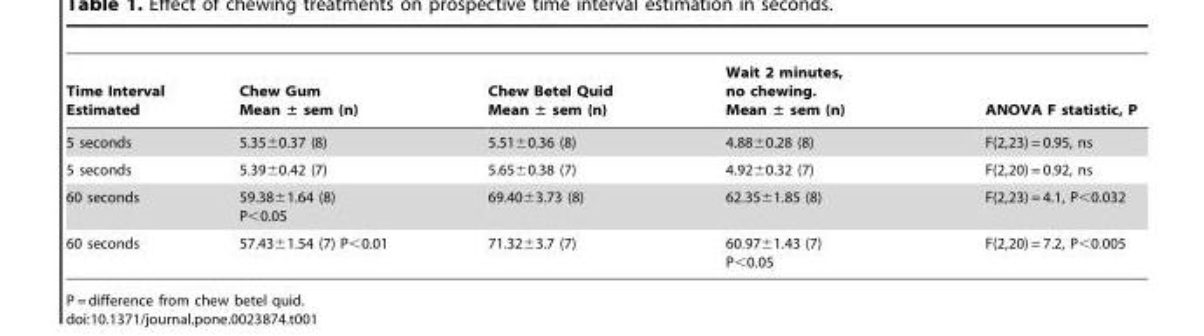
<table><thead><tr><td>Time Interval Estimated</td><td>Chew Gum Mean ± sem (n)</td><td>Chew Betel Quid Mean ± sem (n)</td><td>Wait 2 minutes, no chewing. Mean ± sem (n)</td><td>ANOVA F statistic, P</td></tr></thead><tbody><tr><td>5 seconds</td><td>5.35±0.37 (8)</td><td>5.51±0.36 (8)</td><td>4.88±0.28 (8)</td><td>F(2,23) = 0.95, ns</td></tr><tr><td>5 seconds</td><td>5.39±0.42 (7)</td><td>5.65±0.38 (7)</td><td>4.92±0.32 (7)</td><td>F(2,20) = 0.92, ns</td></tr><tr><td>60 seconds</td><td>59.38±1.64 (8) P&lt;0.05</td><td>69.40±3.73 (8)</td><td>62.35±1.85 (8)</td><td>F(2,23) = 4.1, P&lt;0.032</td></tr><tr><td>60 seconds</td><td>57.43±1.54 (7) P&lt;0.01</td><td>71.32±3.7 (7)</td><td>60.97±1.43 (7) P&lt;0.05</td><td>F(2,20) = 7.2, P&lt;0.005</td></tr></tbody></table>